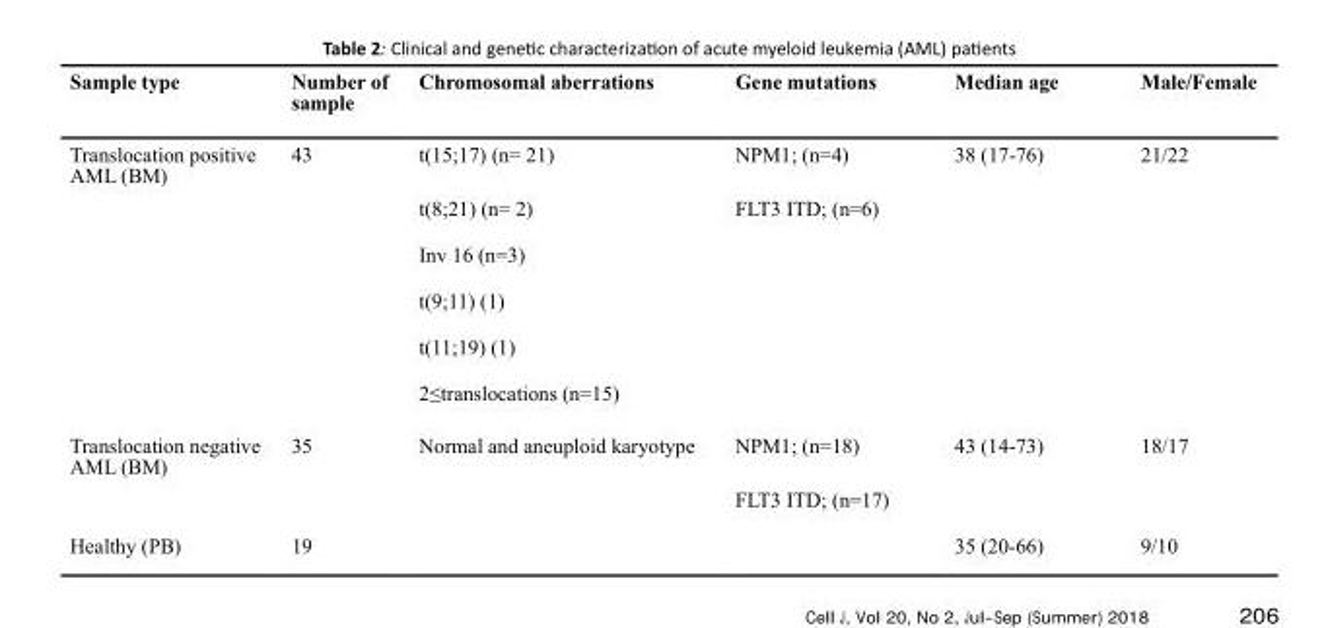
<table><thead><tr><td>Sample type</td><td>Number of sample</td><td>Chromosomal aberrations</td><td>Gene mutations</td><td>Median age</td><td>Male/Female</td></tr></thead><tbody><tr><td rowspan="6">Translocation positive AML (BM)</td><td>43</td><td>t(15;17) (n= 21)</td><td>NPM1; (n=4)</td><td>38 (17-76)</td><td>21/22</td></tr><tr><td></td><td>t(8;21) (n= 2)</td><td>FLT3 ITD; (n=6)</td><td></td><td></td></tr><tr><td></td><td>Inv 16 (n=3)</td><td></td><td></td><td></td></tr><tr><td></td><td>t(9;11) (1)</td><td></td><td></td><td></td></tr><tr><td></td><td>t(11;19) (1)</td><td></td><td></td><td></td></tr><tr><td></td><td>2≤translocations (n=15)</td><td></td><td></td><td></td></tr><tr><td rowspan="2">Translocation negative AML (BM)</td><td>35</td><td>Normal and aneuploid karyotype</td><td>NPM1; (n=18)</td><td>43 (14-73)</td><td>18/17</td></tr><tr><td></td><td></td><td>FLT3 ITD; (n=17)</td><td></td><td></td></tr><tr><td>Healthy (PB)</td><td>19</td><td></td><td></td><td>35 (20-66)</td><td>9/10</td></tr></tbody></table>